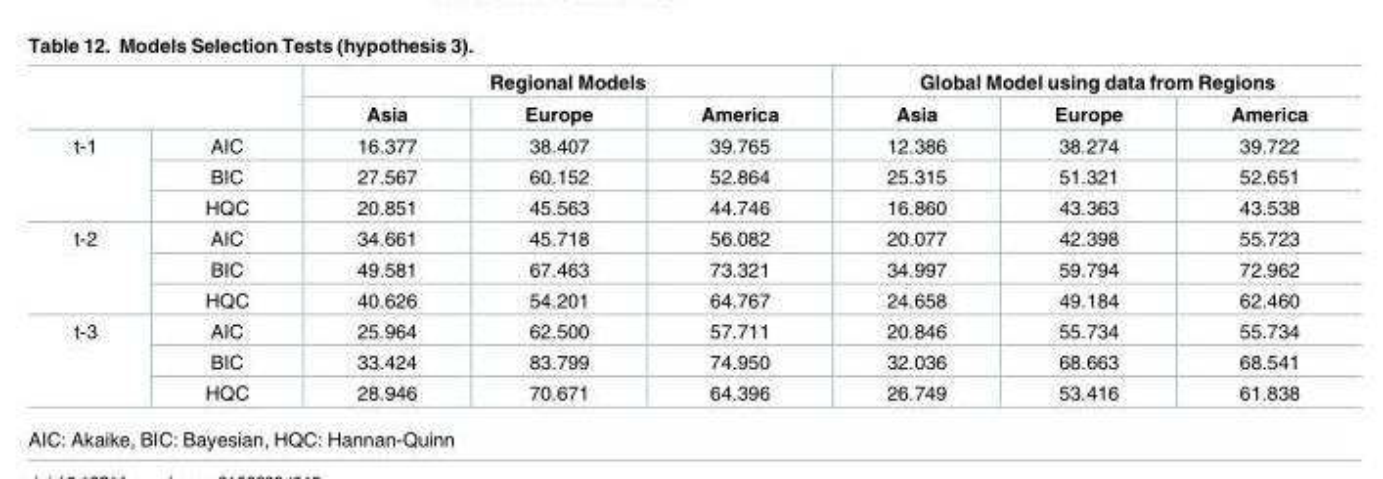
<table><thead><tr><td rowspan="2"></td><td rowspan="2"></td><td colspan="3">Regional Models</td><td colspan="3">Global Model using data from Regions</td></tr><tr><td>Asia</td><td>Europe</td><td>America</td><td>Asia</td><td>Europe</td><td>America</td></tr></thead><tbody><tr><td rowspan="3">t-1</td><td>AIC</td><td>16.377</td><td>38.407</td><td>39.765</td><td>12.386</td><td>38.274</td><td>39.722</td></tr><tr><td>BIC</td><td>27.567</td><td>60.152</td><td>52.864</td><td>25.315</td><td>51.321</td><td>52.651</td></tr><tr><td>HQC</td><td>20.851</td><td>45.563</td><td>44.746</td><td>16.860</td><td>43.363</td><td>43.538</td></tr><tr><td rowspan="3">t-2</td><td>AIC</td><td>34.661</td><td>45.718</td><td>56.082</td><td>20.077</td><td>42.398</td><td>55.723</td></tr><tr><td>BIC</td><td>49.581</td><td>67.463</td><td>73.321</td><td>34.997</td><td>59.794</td><td>72.962</td></tr><tr><td>HQC</td><td>40.626</td><td>54.201</td><td>64.767</td><td>24.658</td><td>49.184</td><td>62.460</td></tr><tr><td rowspan="3">t-3</td><td>AIC</td><td>25.964</td><td>62.500</td><td>57.711</td><td>20.846</td><td>55.734</td><td>55.734</td></tr><tr><td>BIC</td><td>33.424</td><td>83.799</td><td>74.950</td><td>32.036</td><td>68.663</td><td>68.541</td></tr><tr><td>HQC</td><td>28.946</td><td>70.671</td><td>64.396</td><td>26.749</td><td>53.416</td><td>61.838</td></tr></tbody></table>